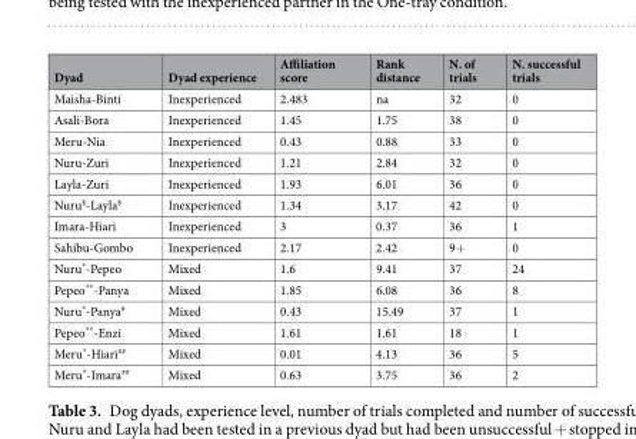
<table><thead><tr><td>Dyad</td><td>Dyad experience</td><td>Affiliation score</td><td>Rank distance</td><td>N. of trials</td><td>N. successful trials</td></tr></thead><tbody><tr><td>Maisha-Binti</td><td>Inexperienced</td><td>2.483</td><td>na</td><td>32</td><td>0</td></tr><tr><td>Asali-Bora</td><td>Inexperienced</td><td>1.45</td><td>1.75</td><td>38</td><td>0</td></tr><tr><td>Meru-Nia</td><td>Inexperienced</td><td>0.43</td><td>0.88</td><td>33</td><td>0</td></tr><tr><td>Nuru-Zuri</td><td>Inexperienced</td><td>1.21</td><td>2.84</td><td>32</td><td>0</td></tr><tr><td>Layla-Zuri</td><td>Inexperienced</td><td>1.93</td><td>6.01</td><td>36</td><td>0</td></tr><tr><td>Nuru<sup>$</sup>-Layla<sup>$</sup></td><td>Inexperienced</td><td>1.34</td><td>3.17</td><td>42</td><td>0</td></tr><tr><td>Imara-Hiari</td><td>Inexperienced</td><td>3</td><td>0.37</td><td>36</td><td>1</td></tr><tr><td>Sahibu-Gombo</td><td>Inexperienced</td><td>2.17</td><td>2.42</td><td>9+</td><td>0</td></tr><tr><td>Nuru*-Pepeo</td><td>Mixed</td><td>1.6</td><td>9.41</td><td>37</td><td>24</td></tr><tr><td>Pepeo**-Panya</td><td>Mixed</td><td>1.85</td><td>6.08</td><td>36</td><td>8</td></tr><tr><td>Nuru*-Panya<sup>#</sup></td><td>Mixed</td><td>0.43</td><td>15.49</td><td>37</td><td>1</td></tr><tr><td>Pepeo**-Enzi</td><td>Mixed</td><td>1.61</td><td>1.61</td><td>18</td><td>1</td></tr><tr><td>Meru*-Hiari<sup>##</sup></td><td>Mixed</td><td>0.01</td><td>4.13</td><td>36</td><td>5</td></tr><tr><td>Meru*-Imara<sup>##</sup></td><td>Mixed</td><td>0.63</td><td>3.75</td><td>36</td><td>2</td></tr></tbody></table>